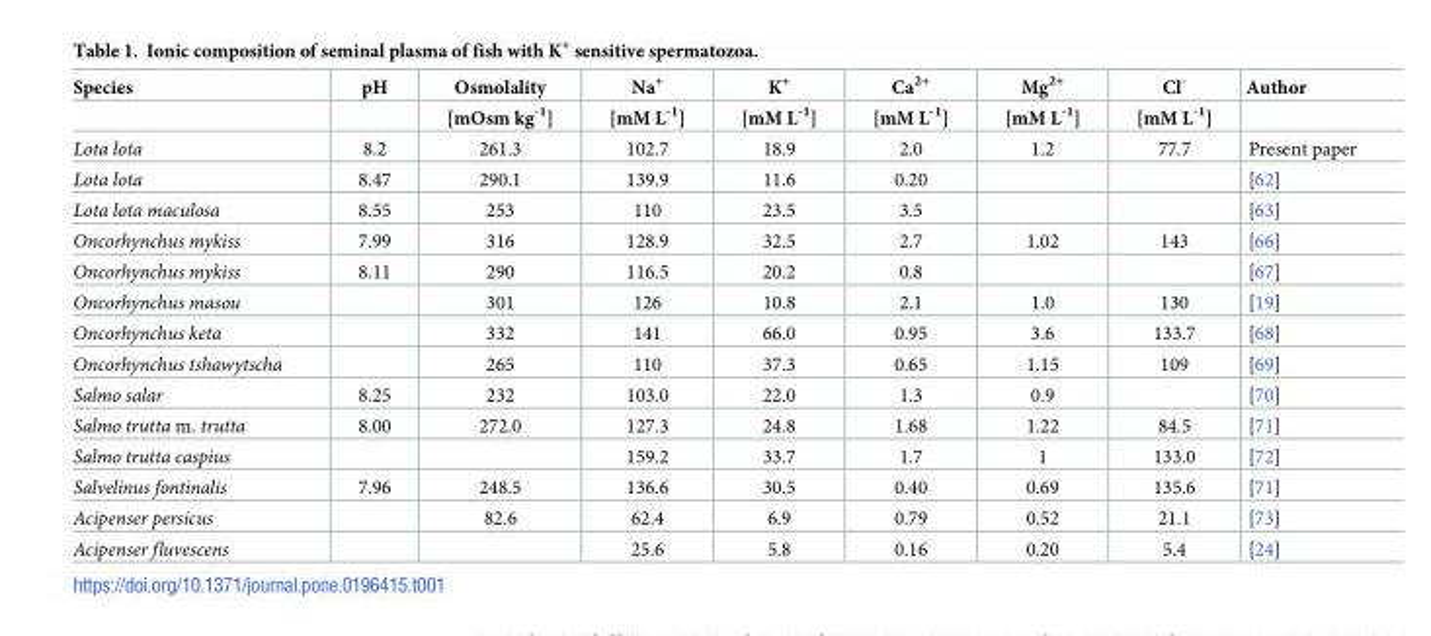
<table><thead><tr><td rowspan="2">Species</td><td rowspan="2">pH</td><td rowspan="2">Osmolality [mOsm kg<sup>-1</sup>]</td><td rowspan="2">Na<sup>+</sup> [mM L<sup>-1</sup>]</td><td rowspan="2">K<sup>+</sup> [mM L<sup>-1</sup>]</td><td rowspan="2">Ca<sup>2+</sup> [mM L<sup>-1</sup>]</td><td rowspan="2">Mg<sup>2+</sup> [mM L<sup>-1</sup>]</td><td rowspan="2">Cl<sup>-</sup> [mM L<sup>-1</sup>]</td><td rowspan="2">Author</td></tr><tr></tr></thead><tbody><tr><td>Lota lota</td><td>8.2</td><td>261.3</td><td>102.7</td><td>18.9</td><td>2.0</td><td>1.2</td><td>77.7</td><td>Present paper</td></tr><tr><td>Lota lota</td><td>8.47</td><td>290.1</td><td>139.9</td><td>11.6</td><td>0.20</td><td></td><td></td><td>[62]</td></tr><tr><td>Lota lota maculosa</td><td>8.55</td><td>253</td><td>110</td><td>23.5</td><td>3.5</td><td></td><td></td><td>[63]</td></tr><tr><td>Oncorhynchus mykiss</td><td>7.99</td><td>316</td><td>128.9</td><td>32.5</td><td>2.7</td><td>1.02</td><td>143</td><td>[66]</td></tr><tr><td>Oncorhynchus mykiss</td><td>8.11</td><td>290</td><td>116.5</td><td>20.2</td><td>0.8</td><td></td><td></td><td>[67]</td></tr><tr><td>Oncorhynchus masou</td><td></td><td>301</td><td>126</td><td>10.8</td><td>2.1</td><td>1.0</td><td>130</td><td>[19]</td></tr><tr><td>Oncorhynchus keta</td><td></td><td>332</td><td>141</td><td>66.0</td><td>0.95</td><td>3.6</td><td>133.7</td><td>[68]</td></tr><tr><td>Oncorhynchus tshawytscha</td><td></td><td>265</td><td>110</td><td>37.3</td><td>0.65</td><td>1.15</td><td>109</td><td>[69]</td></tr><tr><td>Salmo salar</td><td>8.25</td><td>232</td><td>103.0</td><td>22.0</td><td>1.3</td><td>0.9</td><td></td><td>[70]</td></tr><tr><td>Salmo trutta m. trutta</td><td>8.00</td><td>272.0</td><td>127.3</td><td>24.8</td><td>1.68</td><td>1.22</td><td>84.5</td><td>[71]</td></tr><tr><td>Salmo trutta caspius</td><td></td><td></td><td>159.2</td><td>33.7</td><td>1.7</td><td>1</td><td>133.0</td><td>[72]</td></tr><tr><td>Salvelinus fontinalis</td><td>7.96</td><td>248.5</td><td>136.6</td><td>30.5</td><td>0.40</td><td>0.69</td><td>135.6</td><td>[71]</td></tr><tr><td>Acipenser persicus</td><td></td><td>82.6</td><td>62.4</td><td>6.9</td><td>0.79</td><td>0.52</td><td>21.1</td><td>[73]</td></tr><tr><td>Acipenser fluvescens</td><td></td><td></td><td>25.6</td><td>5.8</td><td>0.16</td><td>0.20</td><td>5.4</td><td>[24]</td></tr></tbody></table>